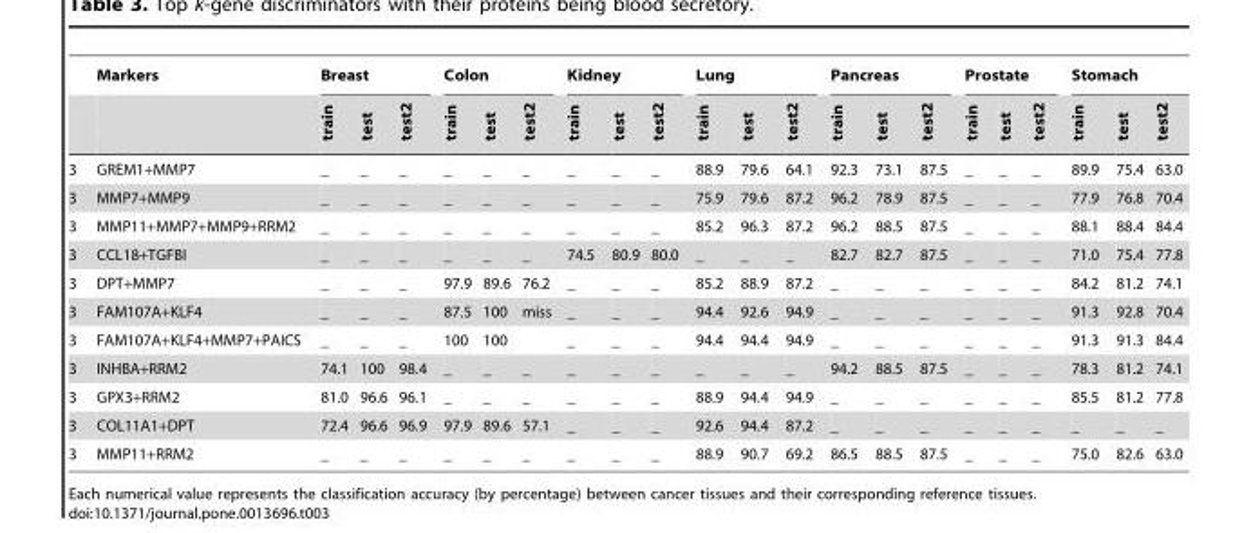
<table><thead><tr><td rowspan="2"></td><td rowspan="2">Markers</td><td colspan="3">Breast</td><td colspan="3">Colon</td><td colspan="3">Kidney</td><td colspan="3">Lung</td><td colspan="3">Pancreas</td><td colspan="3">Prostate</td><td colspan="3">Stomach</td></tr><tr><td>train</td><td>test</td><td>test2</td><td>train</td><td>test</td><td>test2</td><td>train</td><td>test</td><td>test2</td><td>train</td><td>test</td><td>test2</td><td>train</td><td>test</td><td>test2</td><td>train</td><td>test</td><td>test2</td><td>train</td><td>test</td><td>test2</td></tr></thead><tbody><tr><td>3</td><td>GREM1+MMP7</td><td>_</td><td>_</td><td>_</td><td>_</td><td>_</td><td>_</td><td>_</td><td>_</td><td>_</td><td>88.9</td><td>79.6</td><td>64.1</td><td>92.3</td><td>73.1</td><td>87.5</td><td>_</td><td>_</td><td>_</td><td>89.9</td><td>75.4</td><td>63.0</td></tr><tr><td>3</td><td>MMP7+MMP9</td><td>_</td><td>_</td><td>_</td><td>_</td><td>_</td><td>_</td><td>_</td><td>_</td><td>_</td><td>75.9</td><td>79.6</td><td>87.2</td><td>96.2</td><td>78.9</td><td>87.5</td><td>_</td><td>_</td><td>_</td><td>77.9</td><td>76.8</td><td>70.4</td></tr><tr><td>3</td><td>MMP11+MMP7+MMP9+RRM2</td><td>_</td><td>_</td><td>_</td><td>_</td><td>_</td><td>_</td><td>_</td><td>_</td><td>_</td><td>85.2</td><td>96.3</td><td>87.2</td><td>96.2</td><td>88.5</td><td>87.5</td><td>_</td><td>_</td><td>_</td><td>88.1</td><td>88.4</td><td>84.4</td></tr><tr><td>3</td><td>CCL18+TGFBI</td><td>_</td><td>_</td><td>_</td><td>_</td><td>_</td><td>_</td><td>74.5</td><td>80.9</td><td>80.0</td><td>_</td><td>_</td><td>_</td><td>82.7</td><td>82.7</td><td>87.5</td><td>_</td><td>_</td><td>_</td><td>71.0</td><td>75.4</td><td>77.8</td></tr><tr><td>3</td><td>DPT+MMP7</td><td>_</td><td>_</td><td>_</td><td>97.9</td><td>89.6</td><td>76.2</td><td>_</td><td>_</td><td>_</td><td>85.2</td><td>88.9</td><td>87.2</td><td>_</td><td>_</td><td>_</td><td>_</td><td>_</td><td>_</td><td>84.2</td><td>81.2</td><td>74.1</td></tr><tr><td>3</td><td>FAM107A+KLF4</td><td>_</td><td>_</td><td>_</td><td>87.5</td><td>100</td><td>miss</td><td>_</td><td>_</td><td>_</td><td>94.4</td><td>92.6</td><td>94.9</td><td>_</td><td>_</td><td>_</td><td>_</td><td>_</td><td>_</td><td>91.3</td><td>92.8</td><td>70.4</td></tr><tr><td>3</td><td>FAM107A+KLF4+MMP7+PAICS</td><td>_</td><td>_</td><td>_</td><td>100</td><td>100</td><td></td><td>_</td><td>_</td><td>_</td><td>94.4</td><td>94.4</td><td>94.9</td><td>_</td><td>_</td><td>_</td><td>_</td><td>_</td><td>_</td><td>91.3</td><td>91.3</td><td>84.4</td></tr><tr><td>3</td><td>INHBA+RRM2</td><td>74.1</td><td>100</td><td>98.4</td><td>_</td><td>_</td><td>_</td><td>_</td><td>_</td><td>_</td><td>_</td><td>_</td><td>_</td><td>94.2</td><td>88.5</td><td>87.5</td><td>_</td><td>_</td><td>_</td><td>78.3</td><td>81.2</td><td>74.1</td></tr><tr><td>3</td><td>GPX3+RRM2</td><td>81.0</td><td>96.6</td><td>96.1</td><td>_</td><td>_</td><td>_</td><td>_</td><td>_</td><td>_</td><td>88.9</td><td>94.4</td><td>94.9</td><td>_</td><td>_</td><td>_</td><td>_</td><td>_</td><td>_</td><td>85.5</td><td>81.2</td><td>77.8</td></tr><tr><td>3</td><td>COL11A1+DPT</td><td>72.4</td><td>96.6</td><td>96.9</td><td>97.9</td><td>89.6</td><td>57.1</td><td>_</td><td>_</td><td>_</td><td>92.6</td><td>94.4</td><td>87.2</td><td>_</td><td>_</td><td>_</td><td>_</td><td>_</td><td>_</td><td>_</td><td>_</td><td>_</td></tr><tr><td>3</td><td>MMP11+RRM2</td><td>_</td><td>_</td><td>_</td><td>_</td><td>_</td><td>_</td><td>_</td><td>_</td><td>_</td><td>88.9</td><td>90.7</td><td>69.2</td><td>86.5</td><td>88.5</td><td>87.5</td><td>_</td><td>_</td><td>_</td><td>75.0</td><td>82.6</td><td>63.0</td></tr></tbody></table>